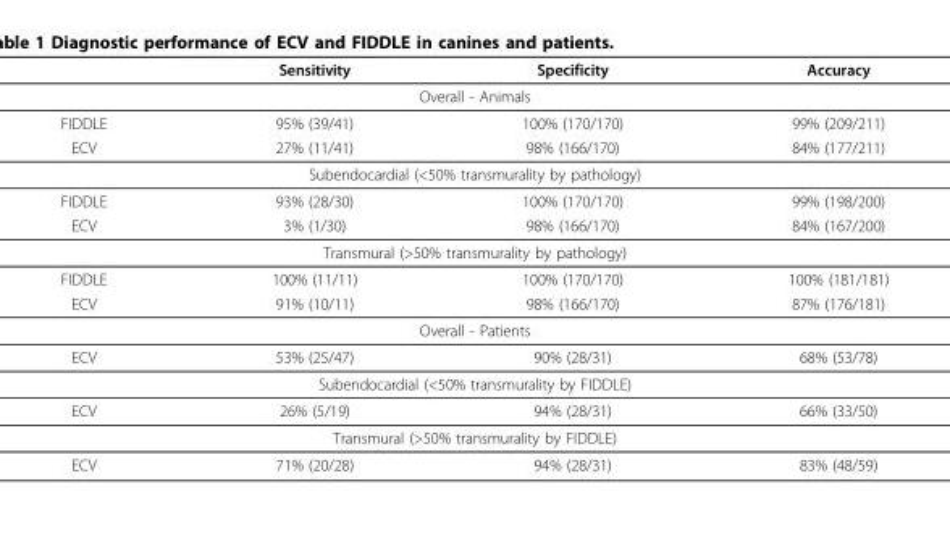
<table><thead><tr><td></td><td>Sensitivity</td><td>Specificity</td><td>Accuracy</td></tr></thead><tbody><tr><td colspan="4">Overall - Animals</td></tr><tr><td>FIDDLE</td><td>95% (39/41)</td><td>100% (170/170)</td><td>99% (209/211)</td></tr><tr><td>ECV</td><td>27% (11/41)</td><td>98% (166/170)</td><td>84% (177/211)</td></tr><tr><td colspan="4">Subendocardial (&lt;50% transmurality by pathology)</td></tr><tr><td>FIDDLE</td><td>93% (28/30)</td><td>100% (170/170)</td><td>99% (198/200)</td></tr><tr><td>ECV</td><td>3% (1/30)</td><td>98% (166/170)</td><td>84% (167/200)</td></tr><tr><td colspan="4">Transmural (&gt;50% transmurality by pathology)</td></tr><tr><td>FIDDLE</td><td>100% (11/11)</td><td>100% (170/170)</td><td>100% (181/181)</td></tr><tr><td>ECV</td><td>91% (10/11)</td><td>98% (166/170)</td><td>87% (176/181)</td></tr><tr><td colspan="4">Overall - Patients</td></tr><tr><td>ECV</td><td>53% (25/47)</td><td>90% (28/31)</td><td>68% (53/78)</td></tr><tr><td colspan="4">Subendocardial (&lt;50% transmurality by FIDDLE)</td></tr><tr><td>ECV</td><td>26% (5/19)</td><td>94% (28/31)</td><td>66% (33/50)</td></tr><tr><td colspan="4">Transmural (&gt;50% transmurality by FIDDLE)</td></tr><tr><td>ECV</td><td>71% (20/28)</td><td>94% (28/31)</td><td>83% (48/59)</td></tr></tbody></table>